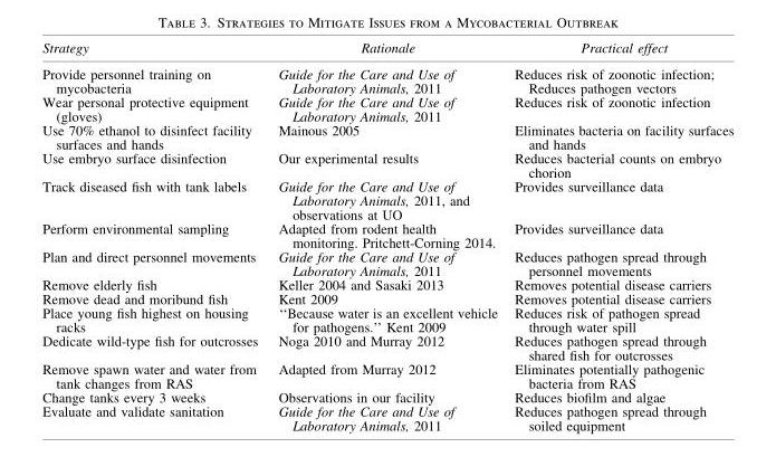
<table><thead><tr><td>Strategy</td><td>Rationale</td><td>Practical effect</td></tr></thead><tbody><tr><td>Provide personnel training on mycobacteria</td><td>Guide for the Care and Use of Laboratory Animals, 2011</td><td>Reduces risk of zoonotic infection; Reduces pathogen vectors</td></tr><tr><td>Wear personal protective equipment (gloves)</td><td>Guide for the Care and Use of Laboratory Animals, 2011</td><td>Reduces risk of zoonotic infection</td></tr><tr><td>Use 70% ethanol to disinfect facility surfaces and hands</td><td>Mainous 2005</td><td>Eliminates bacteria on facility surfaces and hands</td></tr><tr><td>Use embryo surface disinfection</td><td>Our experimental results</td><td>Reduces bacterial counts on embryo chorion</td></tr><tr><td>Track diseased fish with tank labels</td><td>Guide for the Care and Use of Laboratory Animals, 2011, and observations at UO</td><td>Provides surveillance data</td></tr><tr><td>Perform environmental sampling</td><td>Adapted from rodent health monitoring. Pritchett-Corning 2014.</td><td>Provides surveillance data</td></tr><tr><td>Plan and direct personnel movements</td><td>Guide for the Care and Use of Laboratory Animals, 2011</td><td>Reduces pathogen spread through personnel movements</td></tr><tr><td>Remove elderly fish</td><td>Keller 2004 and Sasaki 2013</td><td>Removes potential disease carriers</td></tr><tr><td>Remove dead and moribund fish</td><td>Kent 2009</td><td>Removes potential disease carriers</td></tr><tr><td>Place young fish highest on housing racks</td><td>‘‘Because water is an excellent vehicle for pathogens.’’ Kent 2009</td><td>Reduces risk of pathogen spread through water spill</td></tr><tr><td>Dedicate wild-type fish for outcrosses</td><td>Noga 2010 and Murray 2012</td><td>Reduces pathogen spread through shared fish for outcrosses</td></tr><tr><td>Remove spawn water and water from tank changes from RAS</td><td>Adapted from Murray 2012</td><td>Eliminates potentially pathogenic bacteria from RAS</td></tr><tr><td>Change tanks every 3 weeks</td><td>Observations in our facility</td><td>Reduces biofilm and algae</td></tr><tr><td>Evaluate and validate sanitation</td><td>Guide for the Care and Use of Laboratory Animals, 2011</td><td>Reduces pathogen spread through soiled equipment</td></tr></tbody></table>